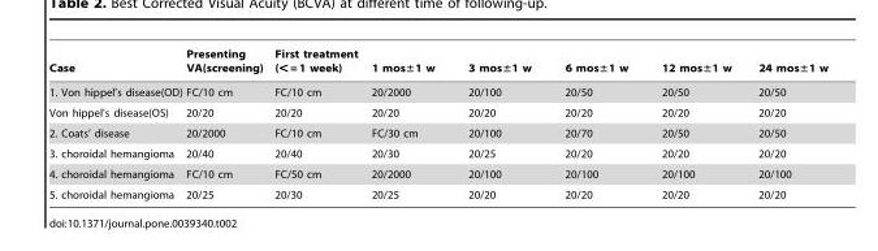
<table><thead><tr><td>Case</td><td>Presenting VA(screening)</td><td>First treatment (&lt; = 1 week)</td><td>1 mos±1 w</td><td>3 mos±1 w</td><td>6 mos±1 w</td><td>12 mos±1 w</td><td>24 mos±1 w</td></tr></thead><tbody><tr><td>1. Von hippel’s disease(OD)</td><td>FC/10 cm</td><td>FC/10 cm</td><td>20/2000</td><td>20/100</td><td>20/50</td><td>20/50</td><td>20/50</td></tr><tr><td>Von hippel’s disease(OS)</td><td>20/20</td><td>20/20</td><td>20/20</td><td>20/20</td><td>20/20</td><td>20/20</td><td>20/20</td></tr><tr><td>2. Coats’ disease</td><td>20/2000</td><td>FC/10 cm</td><td>FC/30 cm</td><td>20/100</td><td>20/70</td><td>20/50</td><td>20/50</td></tr><tr><td>3. choroidal hemangioma</td><td>20/40</td><td>20/40</td><td>20/30</td><td>20/25</td><td>20/20</td><td>20/20</td><td>20/20</td></tr><tr><td>4. choroidal hemangioma</td><td>FC/10 cm</td><td>FC/50 cm</td><td>20/2000</td><td>20/100</td><td>20/100</td><td>20/100</td><td>20/100</td></tr><tr><td>5. choroidal hemangioma</td><td>20/25</td><td>20/30</td><td>20/25</td><td>20/20</td><td>20/20</td><td>20/20</td><td>20/20</td></tr></tbody></table>